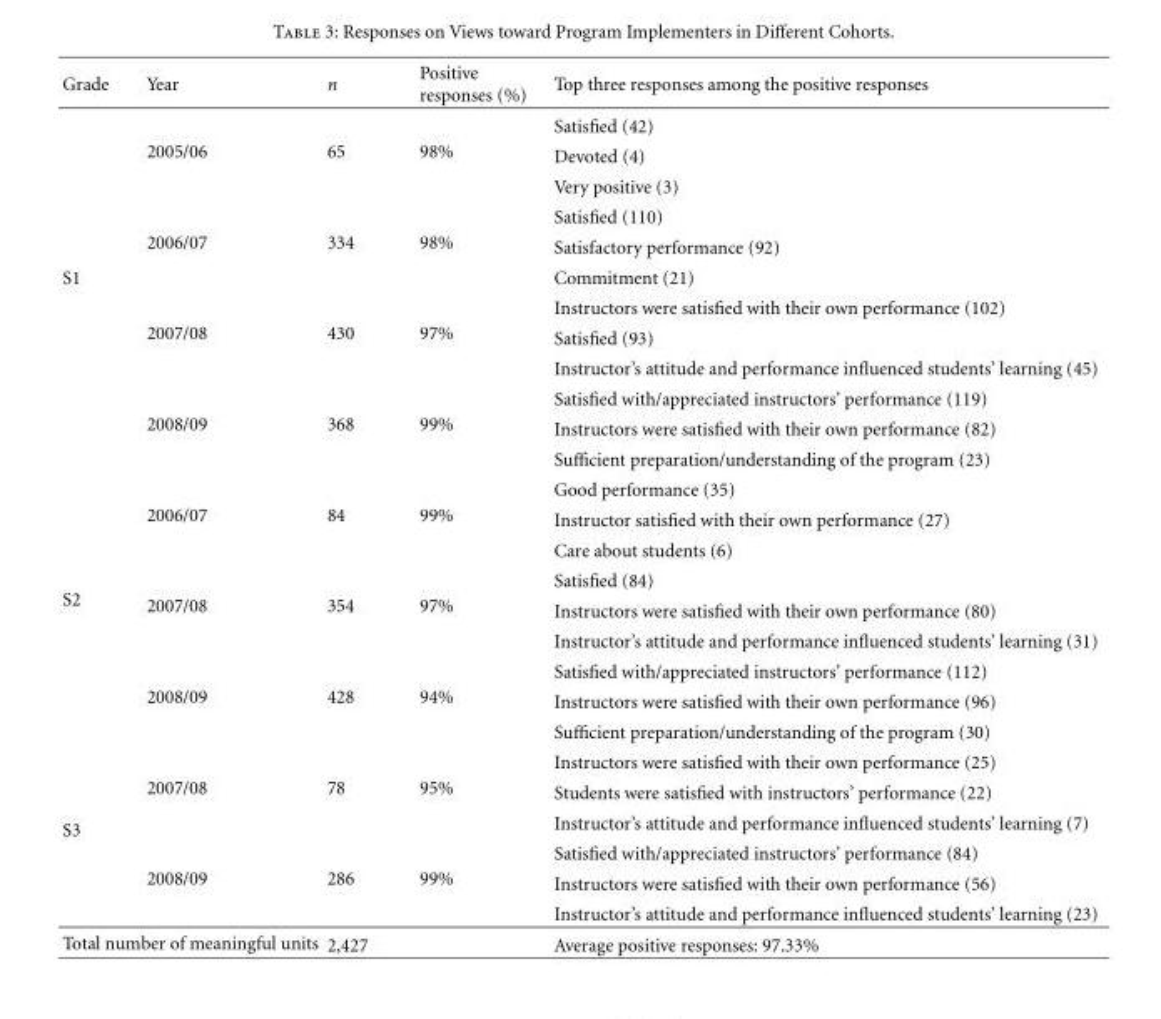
<table><thead><tr><td>Grade</td><td>Year</td><td>n</td><td>Positive responses (%)</td><td>Top three responses among the positive responses</td></tr></thead><tbody><tr><td rowspan="12">S1</td><td rowspan="3">2005/06</td><td rowspan="3">65</td><td rowspan="3">98%</td><td>Satisfied (42)</td></tr><tr><td>Devoted (4)</td></tr><tr><td>Very positive (3)</td></tr><tr><td rowspan="3">2006/07</td><td rowspan="3">334</td><td rowspan="3">98%</td><td>Satisfied (110)</td></tr><tr><td>Satisfactory performance (92)</td></tr><tr><td>Commitment (21)</td></tr><tr><td rowspan="3">2007/08</td><td rowspan="3">430</td><td rowspan="3">97%</td><td>Instructors were satisfied with their own performance (102)</td></tr><tr><td>Satisfied (93)</td></tr><tr><td>Instructor’s attitude and performance influenced students’ learning (45)</td></tr><tr><td rowspan="3">2008/09</td><td rowspan="3">368</td><td rowspan="3">99%</td><td>Satisfied with/appreciated instructors’ performance (119)</td></tr><tr><td>Instructors were satisfied with their own performance (82)</td></tr><tr><td>Sufficient preparation/understanding of the program (23)</td></tr><tr><td rowspan="9">S2</td><td rowspan="3">2006/07</td><td rowspan="3">84</td><td rowspan="3">99%</td><td>Good performance (35)</td></tr><tr><td>Instructor satisfied with their own performance (27)</td></tr><tr><td>Care about students (6)</td></tr><tr><td rowspan="3">2007/08</td><td rowspan="3">354</td><td rowspan="3">97%</td><td>Satisfied (84)</td></tr><tr><td>Instructors were satisfied with their own performance (80)</td></tr><tr><td>Instructor’s attitude and performance influenced students’ learning (31)</td></tr><tr><td rowspan="3">2008/09</td><td rowspan="3">428</td><td rowspan="3">94%</td><td>Satisfied with/appreciated instructors’ performance (112)</td></tr><tr><td>Instructors were satisfied with their own performance (96)</td></tr><tr><td>Sufficient preparation/understanding of the program (30)</td></tr><tr><td rowspan="6">S3</td><td rowspan="3">2007/08</td><td rowspan="3">78</td><td rowspan="3">95%</td><td>Instructors were satisfied with their own performance (25)</td></tr><tr><td>Students were satisfied with instructors’ performance (22)</td></tr><tr><td>Instructor’s attitude and performance influenced students’ learning (7)</td></tr><tr><td rowspan="3">2008/09</td><td rowspan="3">286</td><td rowspan="3">99%</td><td>Satisfied with/appreciated instructors’ performance (84)</td></tr><tr><td>Instructors were satisfied with their own performance (56)</td></tr><tr><td>Instructor’s attitude and performance influenced students’ learning (23)</td></tr><tr><td colspan="2">Total number of meaningful units</td><td>2,427</td><td></td><td>Average positive responses: 97.33%</td></tr></tbody></table>